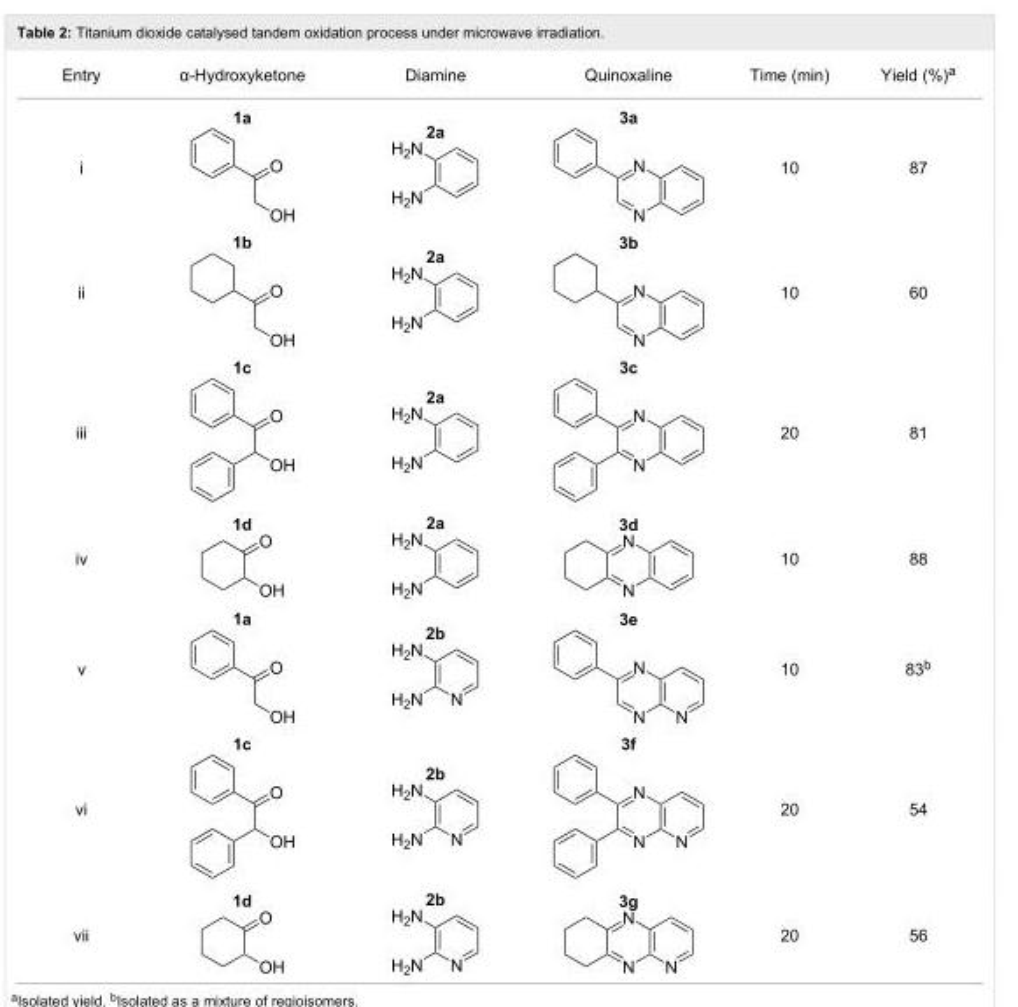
<table><tbody><tr><td>Entry</td><td>α-Hydroxyketone</td><td>Diamine</td><td>Quinoxaline</td><td>Time (min)</td><td>Yield (%)<sup>a</sup></td></tr><tr><td>i</td><td>1a</td><td>2a</td><td>3a</td><td>10</td><td>87</td></tr><tr><td>ii</td><td>1b</td><td>2a</td><td>3b</td><td>10</td><td>60</td></tr><tr><td>iii</td><td>1c</td><td>2a</td><td>3c</td><td>20</td><td>81</td></tr><tr><td>iv</td><td>1d</td><td>2a</td><td>3d</td><td>10</td><td>88</td></tr><tr><td>v</td><td>1a</td><td>2b</td><td>3e</td><td>10</td><td>83<sup>b</sup></td></tr><tr><td>vi</td><td>1c</td><td>2b</td><td>3f</td><td>20</td><td>54</td></tr><tr><td>vii</td><td>1d</td><td>2b</td><td>3g</td><td>20</td><td>56</td></tr></tbody></table>